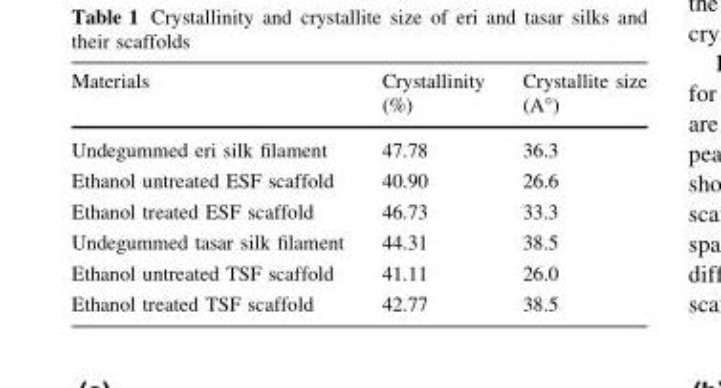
<table><thead><tr><td>Materials</td><td>Crystallinity (%)</td><td>Crystallite size (A°)</td></tr></thead><tbody><tr><td>Undegummed eri silk filament</td><td>47.78</td><td>36.3</td></tr><tr><td>Ethanol untreated ESF scaffold</td><td>40.90</td><td>26.6</td></tr><tr><td>Ethanol treated ESF scaffold</td><td>46.73</td><td>33.3</td></tr><tr><td>Undegummed tasar silk filament</td><td>44.31</td><td>38.5</td></tr><tr><td>Ethanol untreated TSF scaffold</td><td>41.11</td><td>26.0</td></tr><tr><td>Ethanol treated TSF scaffold</td><td>42.77</td><td>38.5</td></tr></tbody></table>